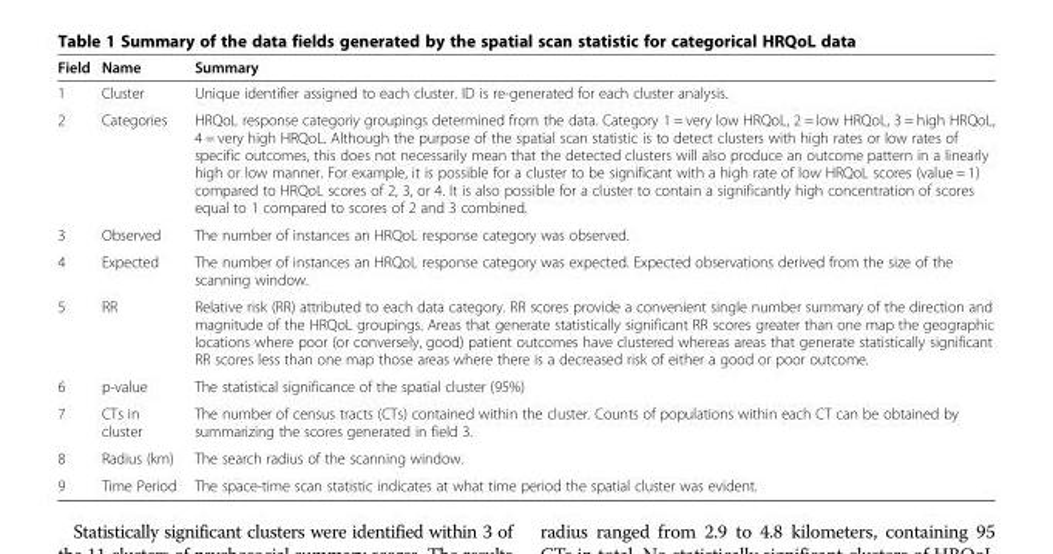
<table><thead><tr><td>Field</td><td>Name</td><td>Summary</td></tr></thead><tbody><tr><td>1</td><td>Cluster</td><td>Unique identifier assigned to each cluster. ID is re-generated for each cluster analysis.</td></tr><tr><td>2</td><td>Categories</td><td>HRQoL response categoriy groupings determined from the data. Category 1 = very low HRQoL, 2 = low HRQoL, 3 = high HRQoL, 4 = very high HRQoL. Although the purpose of the spatial scan statistic is to detect clusters with high rates or low rates of specific outcomes, this does not necessarily mean that the detected clusters will also produce an outcome pattern in a linearly high or low manner. For example, it is possible for a cluster to be significant with a high rate of low HRQoL scores (value = 1) compared to HRQoL scores of 2, 3, or 4. It is also possible for a cluster to contain a significantly high concentration of scores equal to 1 compared to scores of 2 and 3 combined.</td></tr><tr><td>3</td><td>Observed</td><td>The number of instances an HRQoL response category was observed.</td></tr><tr><td>4</td><td>Expected</td><td>The number of instances an HRQoL response category was expected. Expected observations derived from the size of the scanning window.</td></tr><tr><td>5</td><td>RR</td><td>Relative risk (RR) attributed to each data category. RR scores provide a convenient single number summary of the direction and magnitude of the HRQoL groupings. Areas that generate statistically significant RR scores greater than one map the geographic locations where poor (or conversely, good) patient outcomes have clustered whereas areas that generate statistically significant RR scores less than one map those areas where there is a decreased risk of either a good or poor outcome.</td></tr><tr><td>6</td><td>p-value</td><td>The statistical significance of the spatial cluster (95%)</td></tr><tr><td>7</td><td>CTs in cluster</td><td>The number of census tracts (CTs) contained within the cluster. Counts of populations within each CT can be obtained by summarizing the scores generated in field 3.</td></tr><tr><td>8</td><td>Radius (km)</td><td>The search radius of the scanning window.</td></tr><tr><td>9</td><td>Time Period</td><td>The space-time scan statistic indicates at what time period the spatial cluster was evident.</td></tr></tbody></table>